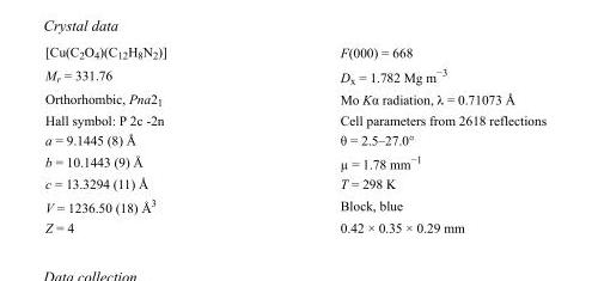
<table><tbody><tr><td>[Cu(C<sub>2</sub>O<sub>4</sub>)(C<sub>12</sub>H<sub>8</sub>N<sub>2</sub>)]</td><td>F(000) = 668</td></tr><tr><td>M<sub>r</sub> = 331.76</td><td>D<sub>x</sub> = 1.782 Mg m<sup>−3</sup></td></tr><tr><td>Orthorhombic, Pna2<sub>1</sub></td><td>Mo Kα radiation, λ = 0.71073 Å</td></tr><tr><td>Hall symbol: P 2c -2n</td><td>Cell parameters from 2618 reflections</td></tr><tr><td>a = 9.1445 (8) Å</td><td>θ = 2.5–27.0°</td></tr><tr><td>b = 10.1443 (9) Å</td><td>µ = 1.78 mm<sup>−1</sup></td></tr><tr><td>c = 13.3294 (11) Å</td><td>T = 298 K</td></tr><tr><td>V = 1236.50 (18) Å<sup>3</sup></td><td>Block, blue</td></tr><tr><td>Z = 4</td><td>0.42 × 0.35 × 0.29 mm</td></tr></tbody></table>